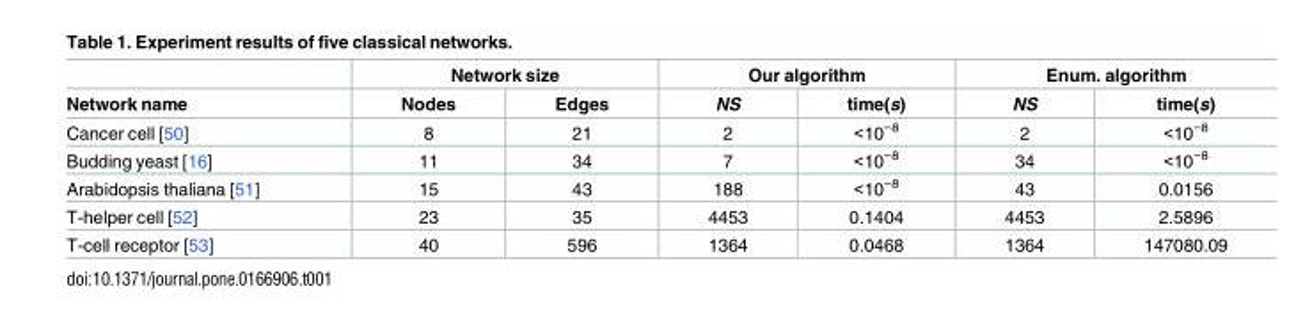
<table><thead><tr><td rowspan="2">Network name</td><td colspan="2">Network size</td><td colspan="2">Our algorithm</td><td colspan="2">Enum. algorithm</td></tr><tr><td>Nodes</td><td>Edges</td><td>NS</td><td>time(s)</td><td>NS</td><td>time(s)</td></tr></thead><tbody><tr><td>Cancer cell [50]</td><td>8</td><td>21</td><td>2</td><td>&lt;10<sup>−8</sup></td><td>2</td><td>&lt;10<sup>−8</sup></td></tr><tr><td>Budding yeast [16]</td><td>11</td><td>34</td><td>7</td><td>&lt;10<sup>−8</sup></td><td>34</td><td>&lt;10<sup>−8</sup></td></tr><tr><td>Arabidopsis thaliana [51]</td><td>15</td><td>43</td><td>188</td><td>&lt;10<sup>−8</sup></td><td>43</td><td>0.0156</td></tr><tr><td>T-helper cell [52]</td><td>23</td><td>35</td><td>4453</td><td>0.1404</td><td>4453</td><td>2.5896</td></tr><tr><td>T-cell receptor [53]</td><td>40</td><td>596</td><td>1364</td><td>0.0468</td><td>1364</td><td>147080.09</td></tr></tbody></table>